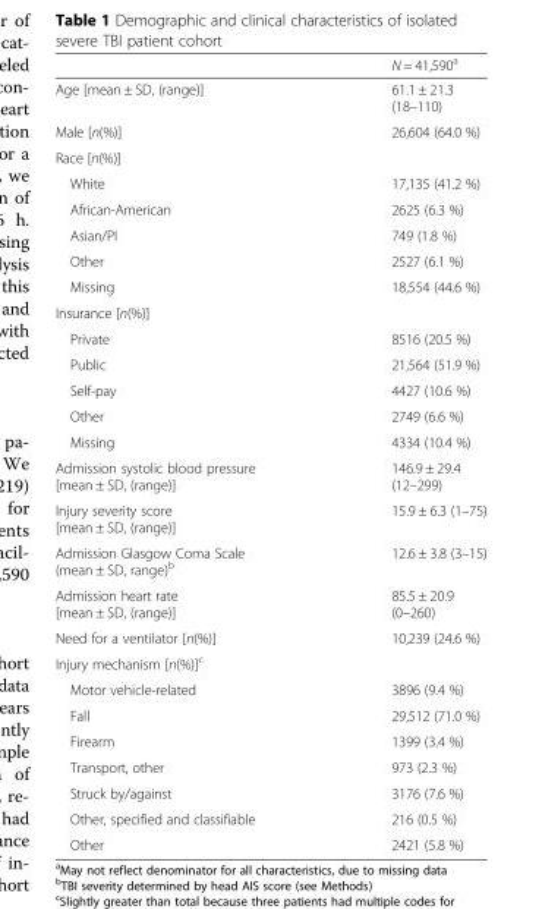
<table><thead><tr><td></td><td>N = 41,590<sup>a</sup></td></tr></thead><tbody><tr><td>Age [mean ± SD, (range)]</td><td>61.1 ± 21.3 (18–110)</td></tr><tr><td>Male [n(%)]</td><td>26,604 (64.0 %)</td></tr><tr><td colspan="2">Race [n(%)]</td></tr><tr><td>White</td><td>17,135 (41.2 %)</td></tr><tr><td>African-American</td><td>2625 (6.3 %)</td></tr><tr><td>Asian/PI</td><td>749 (1.8 %)</td></tr><tr><td>Other</td><td>2527 (6.1 %)</td></tr><tr><td>Missing</td><td>18,554 (44.6 %)</td></tr><tr><td colspan="2">Insurance [n(%)]</td></tr><tr><td>Private</td><td>8516 (20.5 %)</td></tr><tr><td>Public</td><td>21,564 (51.9 %)</td></tr><tr><td>Self-pay</td><td>4427 (10.6 %)</td></tr><tr><td>Other</td><td>2749 (6.6 %)</td></tr><tr><td>Missing</td><td>4334 (10.4 %)</td></tr><tr><td>Admission systolic blood pressure [mean ± SD, (range)]</td><td>146.9 ± 29.4 (12–299)</td></tr><tr><td>Injury severity score [mean ± SD, (range)]</td><td>15.9 ± 6.3 (1–75)</td></tr><tr><td>Admission Glasgow Coma Scale (mean ± SD, range)<sup>b</sup></td><td>12.6 ± 3.8 (3–15)</td></tr><tr><td>Admission heart rate [mean ± SD, (range)]</td><td>85.5 ± 20.9 (0–260)</td></tr><tr><td>Need for a ventilator [n(%)]</td><td>10,239 (24.6 %)</td></tr><tr><td colspan="2">Injury mechanism [n(%)]<sup>c</sup></td></tr><tr><td>Motor vehicle-related</td><td>3896 (9.4 %)</td></tr><tr><td>Fall</td><td>29,512 (71.0 %)</td></tr><tr><td>Firearm</td><td>1399 (3.4 %)</td></tr><tr><td>Transport, other</td><td>973 (2.3 %)</td></tr><tr><td>Struck by/against</td><td>3176 (7.6 %)</td></tr><tr><td>Other, specified and classifiable</td><td>216 (0.5 %)</td></tr><tr><td>Other</td><td>2421 (5.8 %)</td></tr></tbody></table>